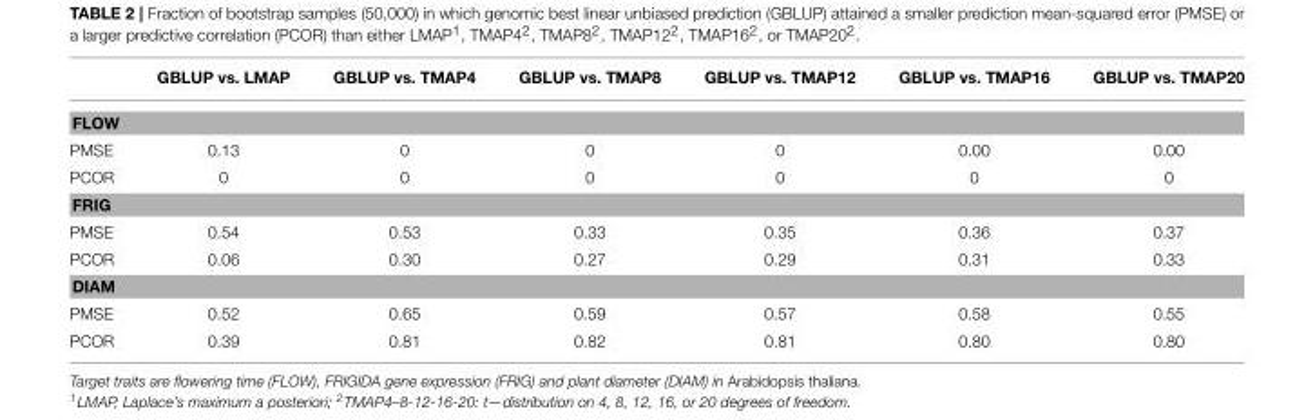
<table><thead><tr><td></td><td>GBLUP vs. LMAP</td><td>GBLUP vs. TMAP4</td><td>GBLUP vs. TMAP8</td><td>GBLUP vs. TMAP12</td><td>GBLUP vs. TMAP16</td><td>GBLUP vs. TMAP20</td></tr></thead><tbody><tr><td colspan="7">FLOW</td></tr><tr><td>PMSE</td><td>0.13</td><td>0</td><td>0</td><td>0</td><td>0.00</td><td>0.00</td></tr><tr><td>PCOR</td><td>0</td><td>0</td><td>0</td><td>0</td><td>0</td><td>0</td></tr><tr><td colspan="7">FRIG</td></tr><tr><td>PMSE</td><td>0.54</td><td>0.53</td><td>0.33</td><td>0.35</td><td>0.36</td><td>0.37</td></tr><tr><td>PCOR</td><td>0.06</td><td>0.30</td><td>0.27</td><td>0.29</td><td>0.31</td><td>0.33</td></tr><tr><td colspan="7">DIAM</td></tr><tr><td>PMSE</td><td>0.52</td><td>0.65</td><td>0.59</td><td>0.57</td><td>0.58</td><td>0.55</td></tr><tr><td>PCOR</td><td>0.39</td><td>0.81</td><td>0.82</td><td>0.81</td><td>0.80</td><td>0.80</td></tr></tbody></table>